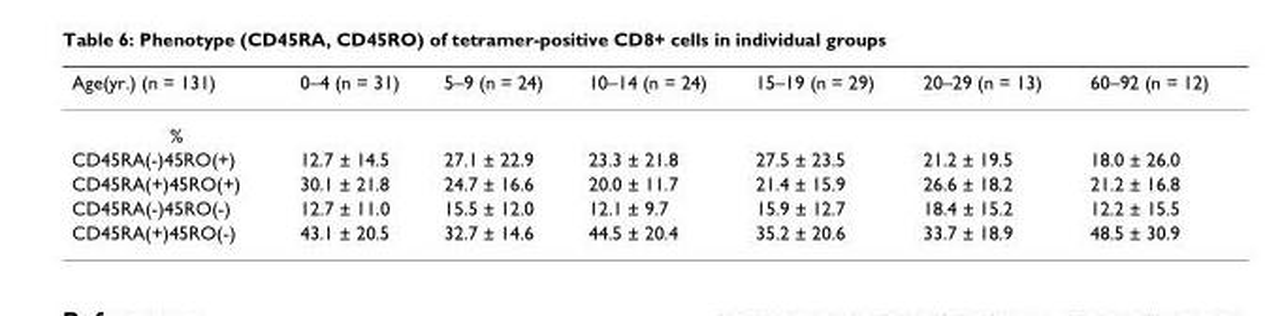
<table><thead><tr><td>Age(yr.) (n = 131)</td><td>0–4 (n = 31)</td><td>5–9 (n = 24)</td><td>10–14 (n = 24)</td><td>15–19 (n = 29)</td><td>20–29 (n = 13)</td><td>60–92 (n = 12)</td></tr></thead><tbody><tr><td colspan="7">%</td></tr><tr><td>CD45RA(-)45RO(+)</td><td>12.7 ± 14.5</td><td>27.1 ± 22.9</td><td>23.3 ± 21.8</td><td>27.5 ± 23.5</td><td>21.2 ± 19.5</td><td>18.0 ± 26.0</td></tr><tr><td>CD45RA(+)45RO(+)</td><td>30.1 ± 21.8</td><td>24.7 ± 16.6</td><td>20.0 ± 11.7</td><td>21.4 ± 15.9</td><td>26.6 ± 18.2</td><td>21.2 ± 16.8</td></tr><tr><td>CD45RA(-)45RO(-)</td><td>12.7 ± 11.0</td><td>15.5 ± 12.0</td><td>12.1 ± 9.7</td><td>15.9 ± 12.7</td><td>18.4 ± 15.2</td><td>12.2 ± 15.5</td></tr><tr><td>CD45RA(+)45RO(-)</td><td>43.1 ± 20.5</td><td>32.7 ± 14.6</td><td>44.5 ± 20.4</td><td>35.2 ± 20.6</td><td>33.7 ± 18.9</td><td>48.5 ± 30.9</td></tr></tbody></table>